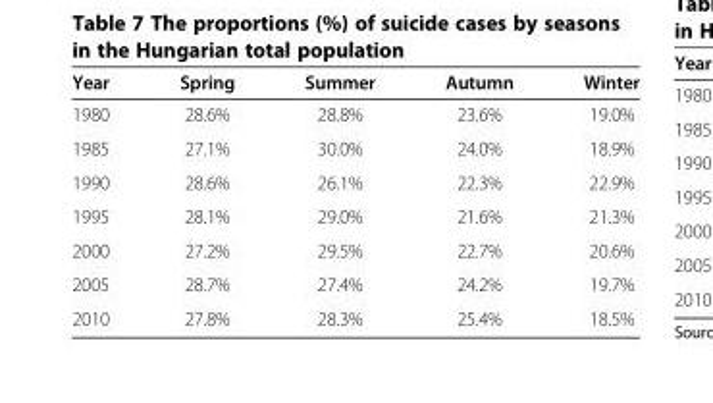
<table><thead><tr><td>Year</td><td>Spring</td><td>Summer</td><td>Autumn</td><td>Winter</td></tr></thead><tbody><tr><td>1980</td><td>28.6%</td><td>28.8%</td><td>23.6%</td><td>19.0%</td></tr><tr><td>1985</td><td>27.1%</td><td>30.0%</td><td>24.0%</td><td>18.9%</td></tr><tr><td>1990</td><td>28.6%</td><td>26.1%</td><td>22.3%</td><td>22.9%</td></tr><tr><td>1995</td><td>28.1%</td><td>29.0%</td><td>21.6%</td><td>21.3%</td></tr><tr><td>2000</td><td>27.2%</td><td>29.5%</td><td>22.7%</td><td>20.6%</td></tr><tr><td>2005</td><td>28.7%</td><td>27.4%</td><td>24.2%</td><td>19.7%</td></tr><tr><td>2010</td><td>27.8%</td><td>28.3%</td><td>25.4%</td><td>18.5%</td></tr></tbody></table>